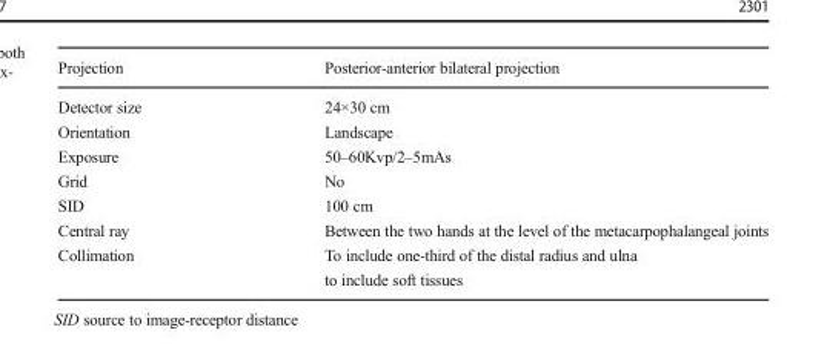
<table><thead><tr><td>Projection</td><td>Posterior-anterior bilateral projection</td></tr></thead><tbody><tr><td>Detector size</td><td>24×30 cm</td></tr><tr><td>Orientation</td><td>Landscape</td></tr><tr><td>Exposure</td><td>50–60Kvp/2–5mAs</td></tr><tr><td>Grid</td><td>No</td></tr><tr><td>SID</td><td>100 cm</td></tr><tr><td>Central ray</td><td>Between the two hands at the level of the metacarpophalangeal joints</td></tr><tr><td>Collimation</td><td>To include one-third of the distal radius and ulna to include soft tissues</td></tr></tbody></table>